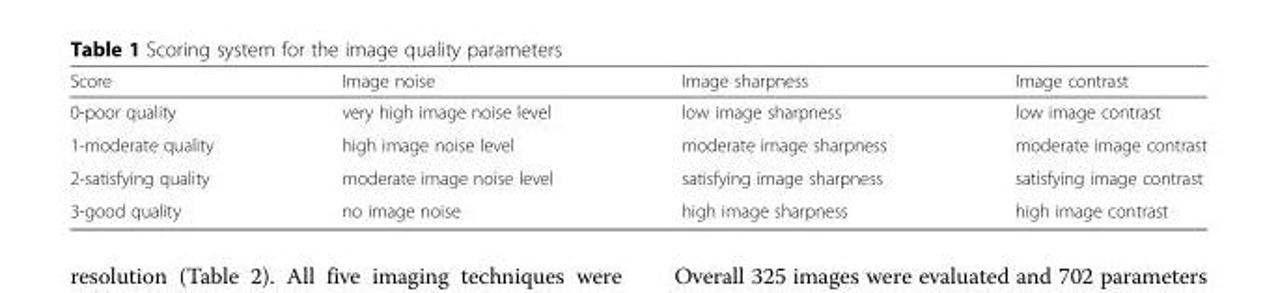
<table><thead><tr><td>Score</td><td>Image noise</td><td>Image sharpness</td><td>Image contrast</td></tr></thead><tbody><tr><td>0-poor quality</td><td>very high image noise level</td><td>low image sharpness</td><td>low image contrast</td></tr><tr><td>1-moderate quality</td><td>high image noise level</td><td>moderate image sharpness</td><td>moderate image contrast</td></tr><tr><td>2-satisfying quality</td><td>moderate image noise level</td><td>satisfying image sharpness</td><td>satisfying image contrast</td></tr><tr><td>3-good quality</td><td>no image noise</td><td>high image sharpness</td><td>high image contrast</td></tr></tbody></table>